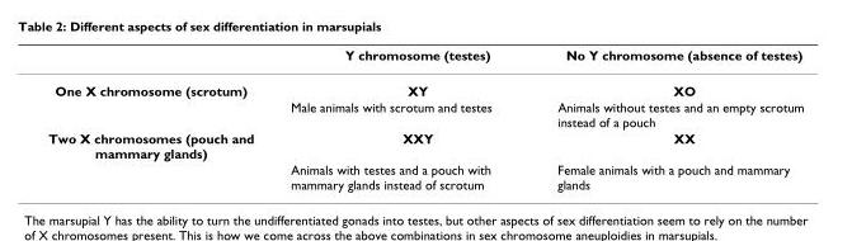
<table><thead><tr><td></td><td>Y chromosome (testes)</td><td>No Y chromosome (absence of testes)</td></tr></thead><tbody><tr><td rowspan="2">One X chromosome (scrotum)</td><td>XY</td><td>XO</td></tr><tr><td>Male animals with scrotum and testes</td><td>Animals without testes and an empty scrotum instead of a pouch</td></tr><tr><td rowspan="2">Two X chromosomes (pouch and mammary glands)</td><td>XXY</td><td>XX</td></tr><tr><td>Animals with testes and a pouch with mammary glands instead of scrotum</td><td>Female animals with a pouch and mammary glands</td></tr></tbody></table>